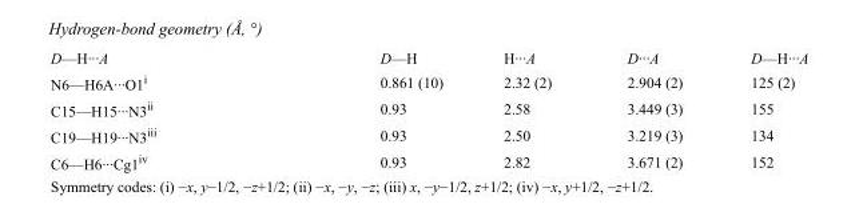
<table><tbody><tr><td>D—H···A</td><td>D—H</td><td>H···A</td><td>D···A</td><td>D—H···A</td></tr><tr><td>N6—H6A···O1<sup>i</sup></td><td>0.861 (10)</td><td>2.32 (2)</td><td>2.904 (2)</td><td>125 (2)</td></tr><tr><td>C15—H15···N3<sup>ii</sup></td><td>0.93</td><td>2.58</td><td>3.449 (3)</td><td>155</td></tr><tr><td>C19—H19···N3<sup>iii</sup></td><td>0.93</td><td>2.50</td><td>3.219 (3)</td><td>134</td></tr><tr><td>C6—H6···Cg1<sup>iv</sup></td><td>0.93</td><td>2.82</td><td>3.671 (2)</td><td>152</td></tr></tbody></table>